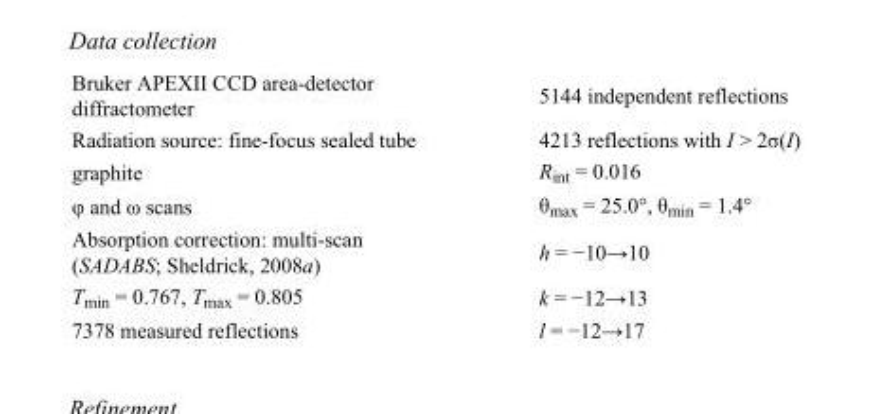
<table><tbody><tr><td>Bruker APEXII CCD area-detector diffractometer</td><td>5144 independent reflections</td></tr><tr><td>Radiation source: fine-focus sealed tube</td><td>4213 reflections with I &gt; 2σ(I)</td></tr><tr><td>graphite</td><td>R<sub>int</sub> = 0.016</td></tr><tr><td>φ and ω scans</td><td>θ<sub>max</sub> = 25.0°, θ<sub>min</sub> = 1.4°</td></tr><tr><td>Absorption correction: multi-scan (SADABS; Sheldrick, 2008a)</td><td>h = −10→10</td></tr><tr><td>T<sub>min</sub> = 0.767, T<sub>max</sub> = 0.805</td><td>k = −12→13</td></tr><tr><td>7378 measured reflections</td><td>l = −12→17</td></tr></tbody></table>